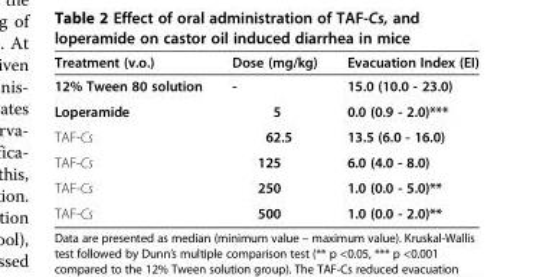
<table><thead><tr><td>Treatment (v.o.)</td><td>Dose (mg/kg)</td><td>Evacuation Index (EI)</td></tr></thead><tbody><tr><td>12% Tween 80 solution</td><td>-</td><td>15.0 (10.0 - 23.0)</td></tr><tr><td>Loperamide</td><td>5</td><td>0.0 (0.9 - 2.0)***</td></tr><tr><td>TAF-Cs</td><td>62.5</td><td>13.5 (6.0 - 16.0)</td></tr><tr><td>TAF-Cs</td><td>125</td><td>6.0 (4.0 - 8.0)</td></tr><tr><td>TAF-Cs</td><td>250</td><td>1.0 (0.0 - 5.0)**</td></tr><tr><td>TAF-Cs</td><td>500</td><td>1.0 (0.0 - 2.0)**</td></tr></tbody></table>